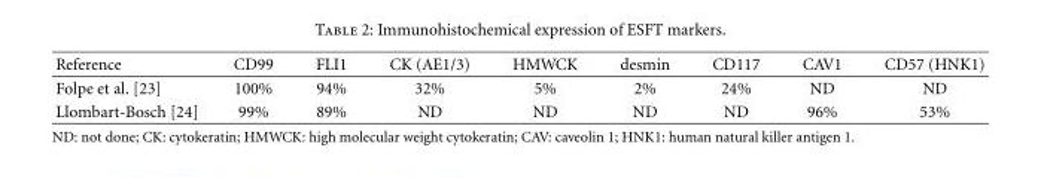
<table><thead><tr><td>Reference</td><td>CD99</td><td>FLI1</td><td>CK (AE1/3)</td><td>HMWCK</td><td>desmin</td><td>CD117</td><td>CAV1</td><td>CD57 (HNK1)</td></tr></thead><tbody><tr><td>Folpe et al. [23]</td><td>100%</td><td>94%</td><td>32%</td><td>5%</td><td>2%</td><td>24%</td><td>ND</td><td>ND</td></tr><tr><td>Llombart-Bosch [24]</td><td>99%</td><td>89%</td><td>ND</td><td>ND</td><td>ND</td><td>ND</td><td>96%</td><td>53%</td></tr></tbody></table>